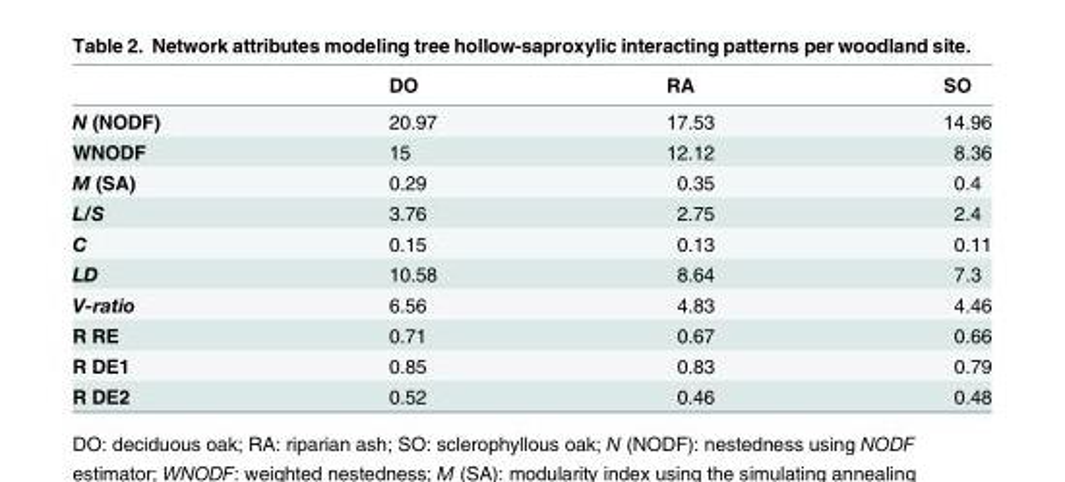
<table><thead><tr><td></td><td>DO</td><td>RA</td><td>SO</td></tr></thead><tbody><tr><td>N (NODF)</td><td>20.97</td><td>17.53</td><td>14.96</td></tr><tr><td>WNODF</td><td>15</td><td>12.12</td><td>8.36</td></tr><tr><td>M (SA)</td><td>0.29</td><td>0.35</td><td>0.4</td></tr><tr><td>L/S</td><td>3.76</td><td>2.75</td><td>2.4</td></tr><tr><td>C</td><td>0.15</td><td>0.13</td><td>0.11</td></tr><tr><td>LD</td><td>10.58</td><td>8.64</td><td>7.3</td></tr><tr><td>V-ratio</td><td>6.56</td><td>4.83</td><td>4.46</td></tr><tr><td>R RE</td><td>0.71</td><td>0.67</td><td>0.66</td></tr><tr><td>R DE1</td><td>0.85</td><td>0.83</td><td>0.79</td></tr><tr><td>R DE2</td><td>0.52</td><td>0.46</td><td>0.48</td></tr></tbody></table>